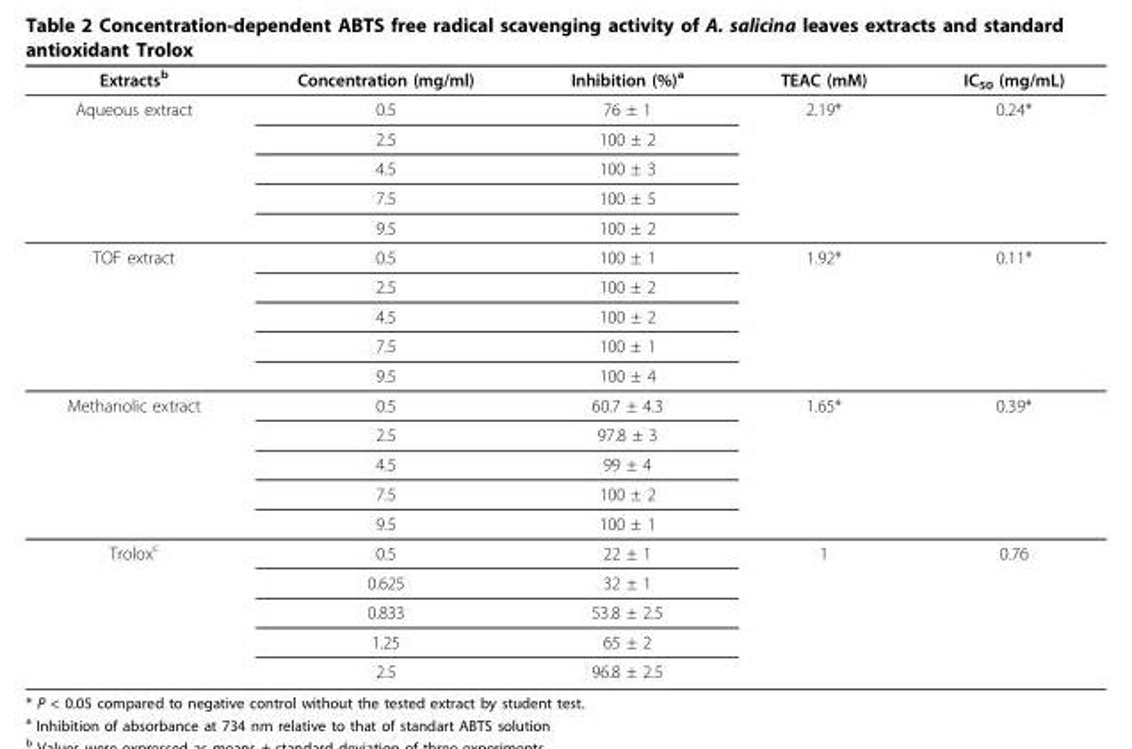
<table><thead><tr><td>Extracts<sup>b</sup></td><td>Concentration (mg/ml)</td><td>Inhibition (%)<sup>a</sup></td><td>TEAC (mM)</td><td>IC<sub>50</sub> (mg/mL)</td></tr></thead><tbody><tr><td rowspan="5">Aqueous extract</td><td>0.5</td><td>76 ± 1</td><td>2.19*</td><td>0.24*</td></tr><tr><td>2.5</td><td>100 ± 2</td><td></td><td></td></tr><tr><td>4.5</td><td>100 ± 3</td><td></td><td></td></tr><tr><td>7.5</td><td>100 ± 5</td><td></td><td></td></tr><tr><td>9.5</td><td>100 ± 2</td><td></td><td></td></tr><tr><td rowspan="5">TOF extract</td><td>0.5</td><td>100 ± 1</td><td>1.92*</td><td>0.11*</td></tr><tr><td>2.5</td><td>100 ± 2</td><td></td><td></td></tr><tr><td>4.5</td><td>100 ± 2</td><td></td><td></td></tr><tr><td>7.5</td><td>100 ± 1</td><td></td><td></td></tr><tr><td>9.5</td><td>100 ± 4</td><td></td><td></td></tr><tr><td rowspan="5">Methanolic extract</td><td>0.5</td><td>60.7 ± 4.3</td><td>1.65*</td><td>0.39*</td></tr><tr><td>2.5</td><td>97.8 ± 3</td><td></td><td></td></tr><tr><td>4.5</td><td>99 ± 4</td><td></td><td></td></tr><tr><td>7.5</td><td>100 ± 2</td><td></td><td></td></tr><tr><td>9.5</td><td>100 ± 1</td><td></td><td></td></tr><tr><td rowspan="5">Trolox<sup>c</sup></td><td>0.5</td><td>22 ± 1</td><td>1</td><td>0.76</td></tr><tr><td>0.625</td><td>32 ± 1</td><td></td><td></td></tr><tr><td>0.833</td><td>53.8 ± 2.5</td><td></td><td></td></tr><tr><td>1.25</td><td>65 ± 2</td><td></td><td></td></tr><tr><td>2.5</td><td>96.8 ± 2.5</td><td></td><td></td></tr></tbody></table>